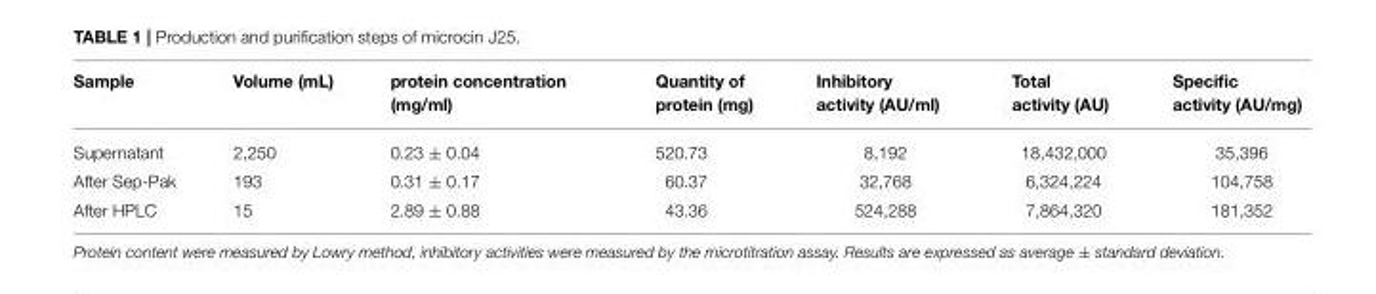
<table><thead><tr><td>Sample</td><td>Volume (mL)</td><td>protein concentration (mg/ml)</td><td>Quantity of protein (mg)</td><td>Inhibitory activity (AU/ml)</td><td>Total activity (AU)</td><td>Specific activity (AU/mg)</td></tr></thead><tbody><tr><td>Supernatant</td><td>2,250</td><td>0.23 ± 0.04</td><td>520.73</td><td>8,192</td><td>18,432,000</td><td>35,396</td></tr><tr><td>After Sep-Pak</td><td>193</td><td>0.31 ± 0.17</td><td>60.37</td><td>32,768</td><td>6,324,224</td><td>104,758</td></tr><tr><td>After HPLC</td><td>15</td><td>2.89 ± 0.88</td><td>43.36</td><td>524,288</td><td>7,864,320</td><td>181,352</td></tr></tbody></table>